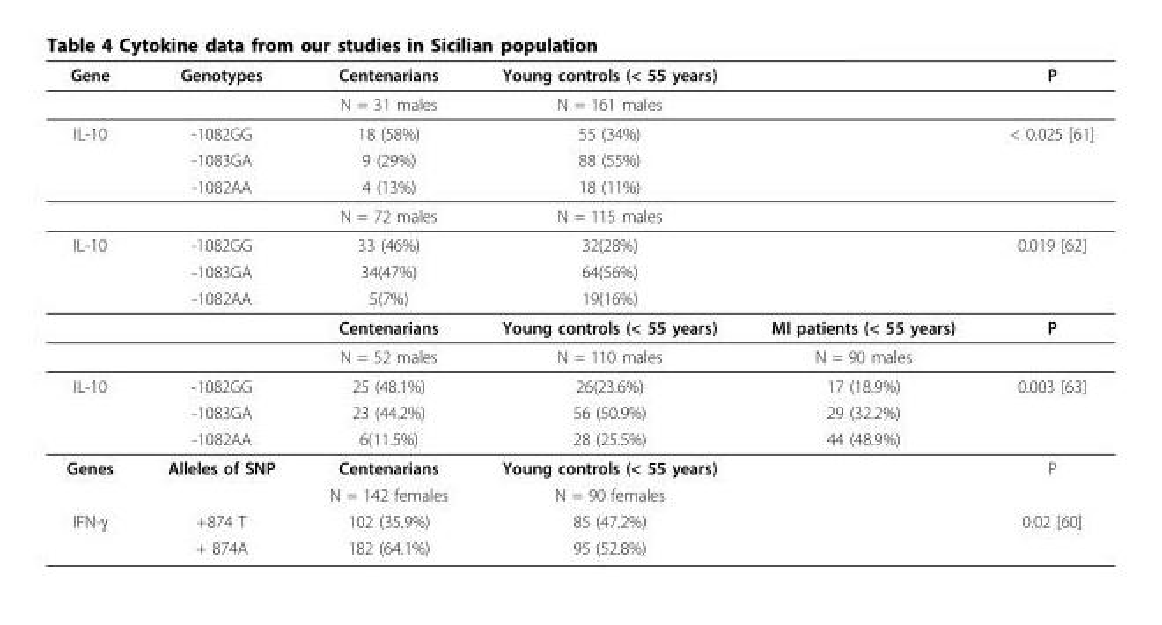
<table><tbody><tr><td rowspan="2">Gene</td><td>Genotypes</td><td>Centenarians</td><td>Young controls (&lt; 55 years)</td><td></td><td>P</td></tr><tr><td></td><td>N = 31 males</td><td>N = 161 males</td><td></td><td></td></tr><tr><td rowspan="4">IL-10</td><td>-1082GG</td><td>18 (58%)</td><td>55 (34%)</td><td></td><td>&lt; 0.025 [61]</td></tr><tr><td>-1083GA</td><td>9 (29%)</td><td>88 (55%)</td><td></td><td></td></tr><tr><td>-1082AA</td><td>4 (13%)</td><td>18 (11%)</td><td></td><td></td></tr><tr><td></td><td>N = 72 males</td><td>N = 115 males</td><td></td><td></td></tr><tr><td rowspan="5">IL-10</td><td>-1082GG</td><td>33 (46%)</td><td>32(28%)</td><td></td><td>0.019 [62]</td></tr><tr><td>-1083GA</td><td>34(47%)</td><td>64(56%)</td><td></td><td></td></tr><tr><td>-1082AA</td><td>5(7%)</td><td>19(16%)</td><td></td><td></td></tr><tr><td></td><td>Centenarians</td><td>Young controls (&lt; 55 years)</td><td>MI patients (&lt; 55 years)</td><td>P</td></tr><tr><td></td><td>N = 52 males</td><td>N = 110 males</td><td>N = 90 males</td><td></td></tr><tr><td rowspan="3">IL-10</td><td>-1082GG</td><td>25 (48.1%)</td><td>26(23.6%)</td><td>17 (18.9%)</td><td>0.003 [63]</td></tr><tr><td>-1083GA</td><td>23 (44.2%)</td><td>56 (50.9%)</td><td>29 (32.2%)</td><td></td></tr><tr><td>-1082AA</td><td>6(11.5%)</td><td>28 (25.5%)</td><td>44 (48.9%)</td><td></td></tr><tr><td rowspan="2">Genes</td><td>Alleles of SNP</td><td>Centenarians</td><td>Young controls (&lt; 55 years)</td><td></td><td>P</td></tr><tr><td></td><td>N = 142 females</td><td>N = 90 females</td><td></td><td></td></tr><tr><td rowspan="2">IFN-γ</td><td>+874 T</td><td>102 (35.9%)</td><td>85 (47.2%)</td><td></td><td>0.02 [60]</td></tr><tr><td>+ 874A</td><td>182 (64.1%)</td><td>95 (52.8%)</td><td></td><td></td></tr></tbody></table>